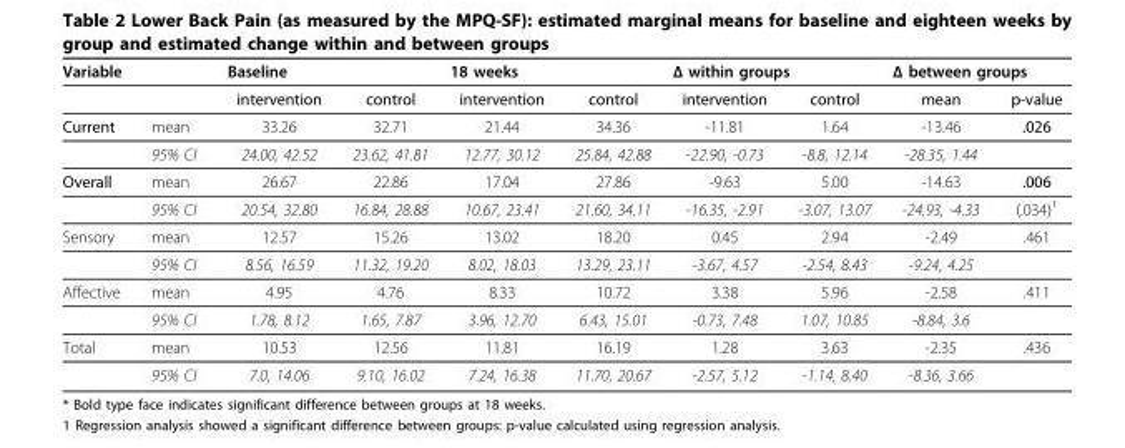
<table><thead><tr><td colspan="2">Variable</td><td colspan="2">Baseline</td><td colspan="2">18 weeks</td><td colspan="2">Δ within groups</td><td colspan="2">Δ between groups</td></tr><tr><td></td><td></td><td>intervention</td><td>control</td><td>intervention</td><td>control</td><td>intervention</td><td>control</td><td>mean</td><td>p-value</td></tr></thead><tbody><tr><td rowspan="2">Current</td><td>mean</td><td>33.26</td><td>32.71</td><td>21.44</td><td>34.36</td><td>-11.81</td><td>1.64</td><td>-13.46</td><td>.026</td></tr><tr><td>95% CI</td><td>24.00, 42.52</td><td>23.62, 41.81</td><td>12.77, 30.12</td><td>25.84, 42.88</td><td>-22.90, -0.73</td><td>-8.8, 12.14</td><td>-28.35, 1.44</td><td></td></tr><tr><td rowspan="2">Overall</td><td>mean</td><td>26.67</td><td>22.86</td><td>17.04</td><td>27.86</td><td>-9.63</td><td>5.00</td><td>-14.63</td><td>.006</td></tr><tr><td>95% CI</td><td>20.54, 32.80</td><td>16.84, 28.88</td><td>10.67, 23.41</td><td>21.60, 34.11</td><td>-16.35, -2.91</td><td>-3.07, 13.07</td><td>-24.93, -4.33</td><td>(.034)1</td></tr><tr><td rowspan="2">Sensory</td><td>mean</td><td>12.57</td><td>15.26</td><td>13.02</td><td>18.20</td><td>0.45</td><td>2.94</td><td>-2.49</td><td>.461</td></tr><tr><td>95% CI</td><td>8.56, 16.59</td><td>11.32, 19.20</td><td>8.02, 18.03</td><td>13.29, 23.11</td><td>-3.67, 4.57</td><td>-2.54, 8.43</td><td>-9.24, 4.25</td><td></td></tr><tr><td rowspan="2">Affective</td><td>mean</td><td>4.95</td><td>4.76</td><td>8.33</td><td>10.72</td><td>3.38</td><td>5.96</td><td>-2.58</td><td>.411</td></tr><tr><td>95% CI</td><td>1.78, 8.12</td><td>1.65, 7.87</td><td>3.96, 12.70</td><td>6.43, 15.01</td><td>-0.73, 7.48</td><td>1.07, 10.85</td><td>-8.84, 3.6</td><td></td></tr><tr><td rowspan="2">Total</td><td>mean</td><td>10.53</td><td>12.56</td><td>11.81</td><td>16.19</td><td>1.28</td><td>3.63</td><td>-2.35</td><td>.436</td></tr><tr><td>95% CI</td><td>7.0, 14.06</td><td>9.10, 16.02</td><td>7.24, 16.38</td><td>11.70, 20.67</td><td>-2.57, 5.12</td><td>-1.14, 8.40</td><td>-8.36, 3.66</td><td></td></tr></tbody></table>